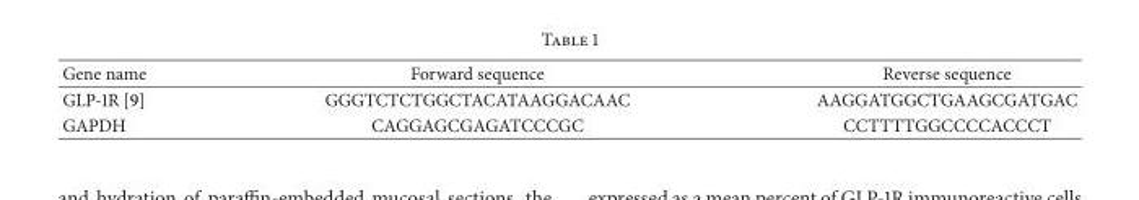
<table><thead><tr><td>Gene name</td><td>Forward sequence</td><td>Reverse sequence</td></tr></thead><tbody><tr><td>GLP-1R [9]</td><td>GGGTCTCTGGCTACATAAGGACAAC</td><td>AAGGATGGCTGAAGCGATGAC</td></tr><tr><td>GAPDH</td><td>CAGGAGCGAGATCCCGC</td><td>CCTTTTGGCCCCACCCT</td></tr></tbody></table>